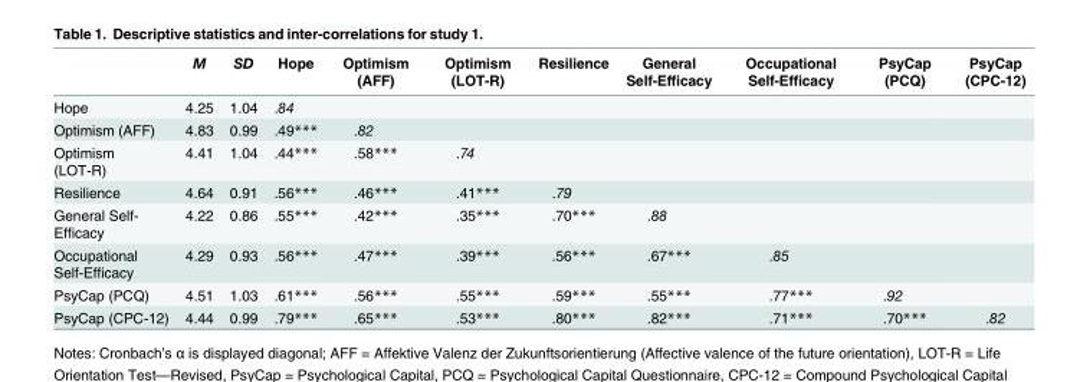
<table><thead><tr><td></td><td>M</td><td>SD</td><td>Hope</td><td>Optimism (AFF)</td><td>Optimism (LOT-R)</td><td>Resilience</td><td>General Self-Efficacy</td><td>Occupational Self-Efficacy</td><td>PsyCap (PCQ)</td><td>PsyCap (CPC-12)</td></tr></thead><tbody><tr><td>Hope</td><td>4.25</td><td>1.04</td><td>.84</td><td></td><td></td><td></td><td></td><td></td><td></td><td></td></tr><tr><td>Optimism (AFF)</td><td>4.83</td><td>0.99</td><td>.49***</td><td>.82</td><td></td><td></td><td></td><td></td><td></td><td></td></tr><tr><td>Optimism (LOT-R)</td><td>4.41</td><td>1.04</td><td>.44***</td><td>.58***</td><td>.74</td><td></td><td></td><td></td><td></td><td></td></tr><tr><td>Resilience</td><td>4.64</td><td>0.91</td><td>.56***</td><td>.46***</td><td>.41***</td><td>.79</td><td></td><td></td><td></td><td></td></tr><tr><td>General Self- Efficacy</td><td>4.22</td><td>0.86</td><td>.55***</td><td>.42***</td><td>.35***</td><td>.70***</td><td>.88</td><td></td><td></td><td></td></tr><tr><td>Occupational Self-Efficacy</td><td>4.29</td><td>0.93</td><td>.56***</td><td>.47***</td><td>.39***</td><td>.56***</td><td>.67***</td><td>.85</td><td></td><td></td></tr><tr><td>PsyCap (PCQ)</td><td>4.51</td><td>1.03</td><td>.61***</td><td>.56***</td><td>.55***</td><td>.59***</td><td>.55***</td><td>.77***</td><td>.92</td><td></td></tr><tr><td>PsyCap (CPC-12)</td><td>4.44</td><td>0.99</td><td>.79***</td><td>.65***</td><td>.53***</td><td>.80***</td><td>.82***</td><td>.71***</td><td>.70***</td><td>.82</td></tr></tbody></table>